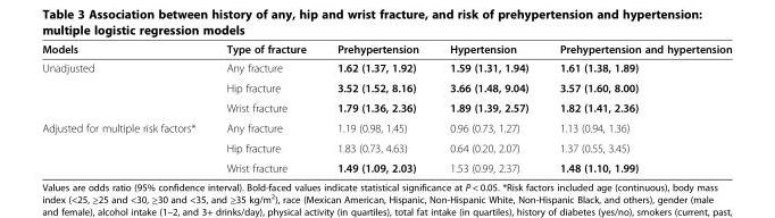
<table><thead><tr><td>Models</td><td>Type of fracture</td><td>Prehypertension</td><td>Hypertension</td><td>Prehypertension and hypertension</td></tr></thead><tbody><tr><td rowspan="3">Unadjusted</td><td>Any fracture</td><td>1.62 (1.37, 1.92)</td><td>1.59 (1.31, 1.94)</td><td>1.61 (1.38, 1.89)</td></tr><tr><td>Hip fracture</td><td>3.52 (1.52, 8.16)</td><td>3.66 (1.48, 9.04)</td><td>3.57 (1.60, 8.00)</td></tr><tr><td>Wrist fracture</td><td>1.79 (1.36, 2.36)</td><td>1.89 (1.39, 2.57)</td><td>1.82 (1.41, 2.36)</td></tr><tr><td rowspan="3">Adjusted for multiple risk factors*</td><td>Any fracture</td><td>1.19 (0.98, 1.45)</td><td>0.96 (0.73, 1.27)</td><td>1.13 (0.94, 1.36)</td></tr><tr><td>Hip fracture</td><td>1.83 (0.73, 4.63)</td><td>0.64 (0.20, 2.07)</td><td>1.37 (0.55, 3.45)</td></tr><tr><td>Wrist fracture</td><td>1.49 (1.09, 2.03)</td><td>1.53 (0.99, 2.37)</td><td>1.48 (1.10, 1.99)</td></tr></tbody></table>